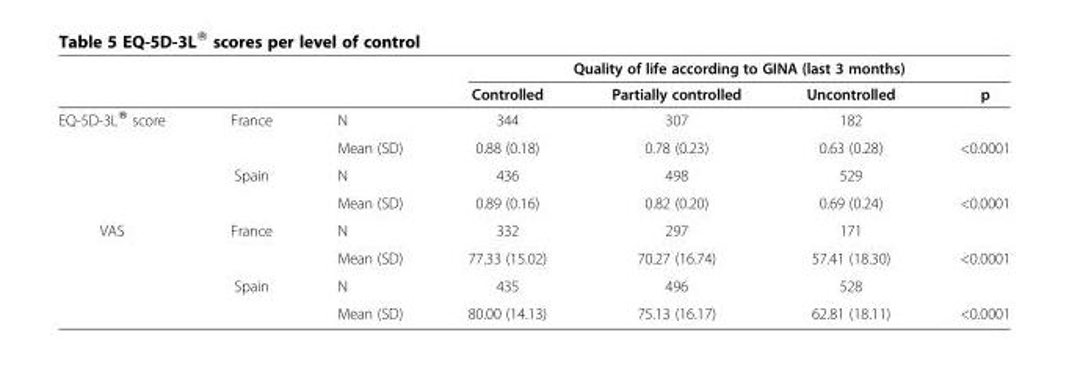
<table><thead><tr><td rowspan="2"></td><td rowspan="2"></td><td rowspan="2"></td><td colspan="4">Quality of life according to GINA (last 3 months)</td></tr><tr><td>Controlled</td><td>Partially controlled</td><td>Uncontrolled</td><td>p</td></tr></thead><tbody><tr><td rowspan="4">EQ-5D-3L® score</td><td rowspan="2">France</td><td>N</td><td>344</td><td>307</td><td>182</td><td></td></tr><tr><td>Mean (SD)</td><td>0.88 (0.18)</td><td>0.78 (0.23)</td><td>0.63 (0.28)</td><td>&lt;0.0001</td></tr><tr><td rowspan="2">Spain</td><td>N</td><td>436</td><td>498</td><td>529</td><td></td></tr><tr><td>Mean (SD)</td><td>0.89 (0.16)</td><td>0.82 (0.20)</td><td>0.69 (0.24)</td><td>&lt;0.0001</td></tr><tr><td rowspan="4">VAS</td><td rowspan="2">France</td><td>N</td><td>332</td><td>297</td><td>171</td><td></td></tr><tr><td>Mean (SD)</td><td>77.33 (15.02)</td><td>70.27 (16.74)</td><td>57.41 (18.30)</td><td>&lt;0.0001</td></tr><tr><td rowspan="2">Spain</td><td>N</td><td>435</td><td>496</td><td>528</td><td></td></tr><tr><td>Mean (SD)</td><td>80.00 (14.13)</td><td>75.13 (16.17)</td><td>62.81 (18.11)</td><td>&lt;0.0001</td></tr></tbody></table>